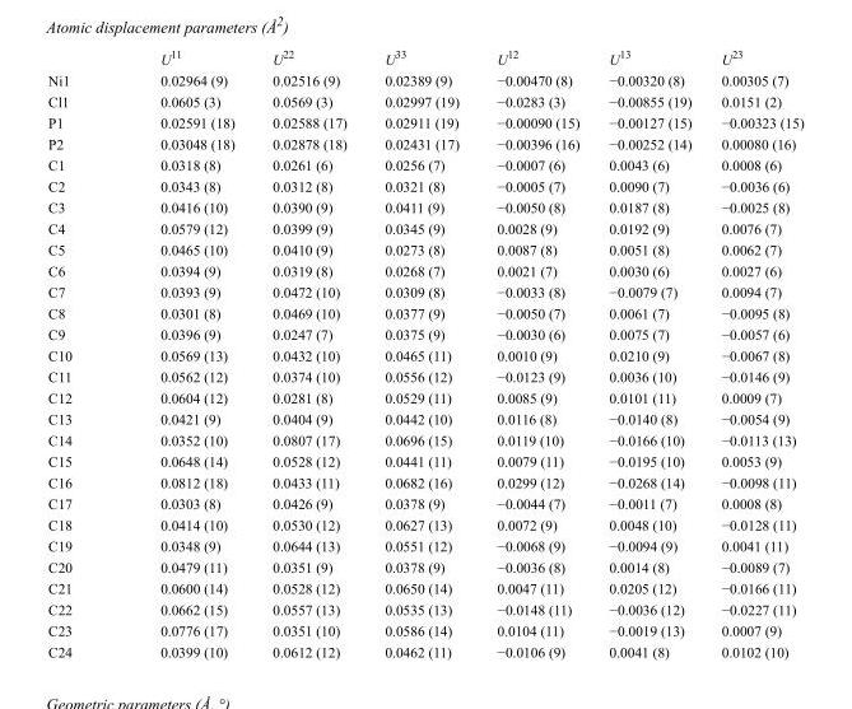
<table><thead><tr><td></td><td>U<sup>11</sup></td><td>U<sup>22</sup></td><td>U<sup>33</sup></td><td>U<sup>12</sup></td><td>U<sup>13</sup></td><td>U<sup>23</sup></td></tr></thead><tbody><tr><td>Ni1</td><td>0.02964 (9)</td><td>0.02516 (9)</td><td>0.02389 (9)</td><td>−0.00470 (8)</td><td>−0.00320 (8)</td><td>0.00305 (7)</td></tr><tr><td>Cl1</td><td>0.0605 (3)</td><td>0.0569 (3)</td><td>0.02997 (19)</td><td>−0.0283 (3)</td><td>−0.00855 (19)</td><td>0.0151 (2)</td></tr><tr><td>P1</td><td>0.02591 (18)</td><td>0.02588 (17)</td><td>0.02911 (19)</td><td>−0.00090 (15)</td><td>−0.00127 (15)</td><td>−0.00323 (15)</td></tr><tr><td>P2</td><td>0.03048 (18)</td><td>0.02878 (18)</td><td>0.02431 (17)</td><td>−0.00396 (16)</td><td>−0.00252 (14)</td><td>0.00080 (16)</td></tr><tr><td>C1</td><td>0.0318 (8)</td><td>0.0261 (6)</td><td>0.0256 (7)</td><td>−0.0007 (6)</td><td>0.0043 (6)</td><td>0.0008 (6)</td></tr><tr><td>C2</td><td>0.0343 (8)</td><td>0.0312 (8)</td><td>0.0321 (8)</td><td>−0.0005 (7)</td><td>0.0090 (7)</td><td>−0.0036 (6)</td></tr><tr><td>C3</td><td>0.0416 (10)</td><td>0.0390 (9)</td><td>0.0411 (9)</td><td>−0.0050 (8)</td><td>0.0187 (8)</td><td>−0.0025 (8)</td></tr><tr><td>C4</td><td>0.0579 (12)</td><td>0.0399 (9)</td><td>0.0345 (9)</td><td>0.0028 (9)</td><td>0.0192 (9)</td><td>0.0076 (7)</td></tr><tr><td>C5</td><td>0.0465 (10)</td><td>0.0410 (9)</td><td>0.0273 (8)</td><td>0.0087 (8)</td><td>0.0051 (8)</td><td>0.0062 (7)</td></tr><tr><td>C6</td><td>0.0394 (9)</td><td>0.0319 (8)</td><td>0.0268 (7)</td><td>0.0021 (7)</td><td>0.0030 (6)</td><td>0.0027 (6)</td></tr><tr><td>C7</td><td>0.0393 (9)</td><td>0.0472 (10)</td><td>0.0309 (8)</td><td>−0.0033 (8)</td><td>−0.0079 (7)</td><td>0.0094 (7)</td></tr><tr><td>C8</td><td>0.0301 (8)</td><td>0.0469 (10)</td><td>0.0377 (9)</td><td>−0.0050 (7)</td><td>0.0061 (7)</td><td>−0.0095 (8)</td></tr><tr><td>C9</td><td>0.0396 (9)</td><td>0.0247 (7)</td><td>0.0375 (9)</td><td>−0.0030 (6)</td><td>0.0075 (7)</td><td>−0.0057 (6)</td></tr><tr><td>C10</td><td>0.0569 (13)</td><td>0.0432 (10)</td><td>0.0465 (11)</td><td>0.0010 (9)</td><td>0.0210 (9)</td><td>−0.0067 (8)</td></tr><tr><td>C11</td><td>0.0562 (12)</td><td>0.0374 (10)</td><td>0.0556 (12)</td><td>−0.0123 (9)</td><td>0.0036 (10)</td><td>−0.0146 (9)</td></tr><tr><td>C12</td><td>0.0604 (12)</td><td>0.0281 (8)</td><td>0.0529 (11)</td><td>0.0085 (9)</td><td>0.0101 (11)</td><td>0.0009 (7)</td></tr><tr><td>C13</td><td>0.0421 (9)</td><td>0.0404 (9)</td><td>0.0442 (10)</td><td>0.0116 (8)</td><td>−0.0140 (8)</td><td>−0.0054 (9)</td></tr><tr><td>C14</td><td>0.0352 (10)</td><td>0.0807 (17)</td><td>0.0696 (15)</td><td>0.0119 (10)</td><td>−0.0166 (10)</td><td>−0.0113 (13)</td></tr><tr><td>C15</td><td>0.0648 (14)</td><td>0.0528 (12)</td><td>0.0441 (11)</td><td>0.0079 (11)</td><td>−0.0195 (10)</td><td>0.0053 (9)</td></tr><tr><td>C16</td><td>0.0812 (18)</td><td>0.0433 (11)</td><td>0.0682 (16)</td><td>0.0299 (12)</td><td>−0.0268 (14)</td><td>−0.0098 (11)</td></tr><tr><td>C17</td><td>0.0303 (8)</td><td>0.0426 (9)</td><td>0.0378 (9)</td><td>−0.0044 (7)</td><td>−0.0011 (7)</td><td>0.0008 (8)</td></tr><tr><td>C18</td><td>0.0414 (10)</td><td>0.0530 (12)</td><td>0.0627 (13)</td><td>0.0072 (9)</td><td>0.0048 (10)</td><td>−0.0128 (11)</td></tr><tr><td>C19</td><td>0.0348 (9)</td><td>0.0644 (13)</td><td>0.0551 (12)</td><td>−0.0068 (9)</td><td>−0.0094 (9)</td><td>0.0041 (11)</td></tr><tr><td>C20</td><td>0.0479 (11)</td><td>0.0351 (9)</td><td>0.0378 (9)</td><td>−0.0036 (8)</td><td>0.0014 (8)</td><td>−0.0089 (7)</td></tr><tr><td>C21</td><td>0.0600 (14)</td><td>0.0528 (12)</td><td>0.0650 (14)</td><td>0.0047 (11)</td><td>0.0205 (12)</td><td>−0.0166 (11)</td></tr><tr><td>C22</td><td>0.0662 (15)</td><td>0.0557 (13)</td><td>0.0535 (13)</td><td>−0.0148 (11)</td><td>−0.0036 (12)</td><td>−0.0227 (11)</td></tr><tr><td>C23</td><td>0.0776 (17)</td><td>0.0351 (10)</td><td>0.0586 (14)</td><td>0.0104 (11)</td><td>−0.0019 (13)</td><td>0.0007 (9)</td></tr><tr><td>C24</td><td>0.0399 (10)</td><td>0.0612 (12)</td><td>0.0462 (11)</td><td>−0.0106 (9)</td><td>0.0041 (8)</td><td>0.0102 (10)</td></tr></tbody></table>